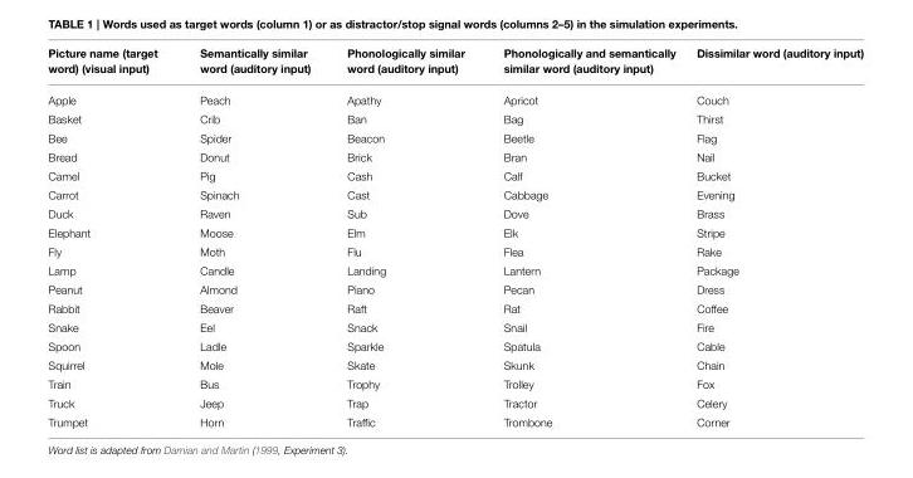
<table><thead><tr><td>Picture name (target word) (visual input)</td><td>Semantically similar word (auditory input)</td><td>Phonologically similar word (auditory input)</td><td>Phonologically and semantically similar word (auditory input)</td><td>Dissimilar word (auditory input)</td></tr></thead><tbody><tr><td>Apple</td><td>Peach</td><td>Apathy</td><td>Apricot</td><td>Couch</td></tr><tr><td>Basket</td><td>Crib</td><td>Ban</td><td>Bag</td><td>Thirst</td></tr><tr><td>Bee</td><td>Spider</td><td>Beacon</td><td>Beetle</td><td>Flag</td></tr><tr><td>Bread</td><td>Donut</td><td>Brick</td><td>Bran</td><td>Nail</td></tr><tr><td>Camel</td><td>Pig</td><td>Cash</td><td>Calf</td><td>Bucket</td></tr><tr><td>Carrot</td><td>Spinach</td><td>Cast</td><td>Cabbage</td><td>Evening</td></tr><tr><td>Duck</td><td>Raven</td><td>Sub</td><td>Dove</td><td>Brass</td></tr><tr><td>Elephant</td><td>Moose</td><td>Elm</td><td>Elk</td><td>Stripe</td></tr><tr><td>Fly</td><td>Moth</td><td>Flu</td><td>Flea</td><td>Rake</td></tr><tr><td>Lamp</td><td>Candle</td><td>Landing</td><td>Lantern</td><td>Package</td></tr><tr><td>Peanut</td><td>Almond</td><td>Piano</td><td>Pecan</td><td>Dress</td></tr><tr><td>Rabbit</td><td>Beaver</td><td>Raft</td><td>Rat</td><td>Coffee</td></tr><tr><td>Snake</td><td>Eel</td><td>Snack</td><td>Snail</td><td>Fire</td></tr><tr><td>Spoon</td><td>Ladle</td><td>Sparkle</td><td>Spatula</td><td>Cable</td></tr><tr><td>Squirrel</td><td>Mole</td><td>Skate</td><td>Skunk</td><td>Chain</td></tr><tr><td>Train</td><td>Bus</td><td>Trophy</td><td>Trolley</td><td>Fox</td></tr><tr><td>Truck</td><td>Jeep</td><td>Trap</td><td>Tractor</td><td>Celery</td></tr><tr><td>Trumpet</td><td>Horn</td><td>Traffic</td><td>Trombone</td><td>Corner</td></tr></tbody></table>